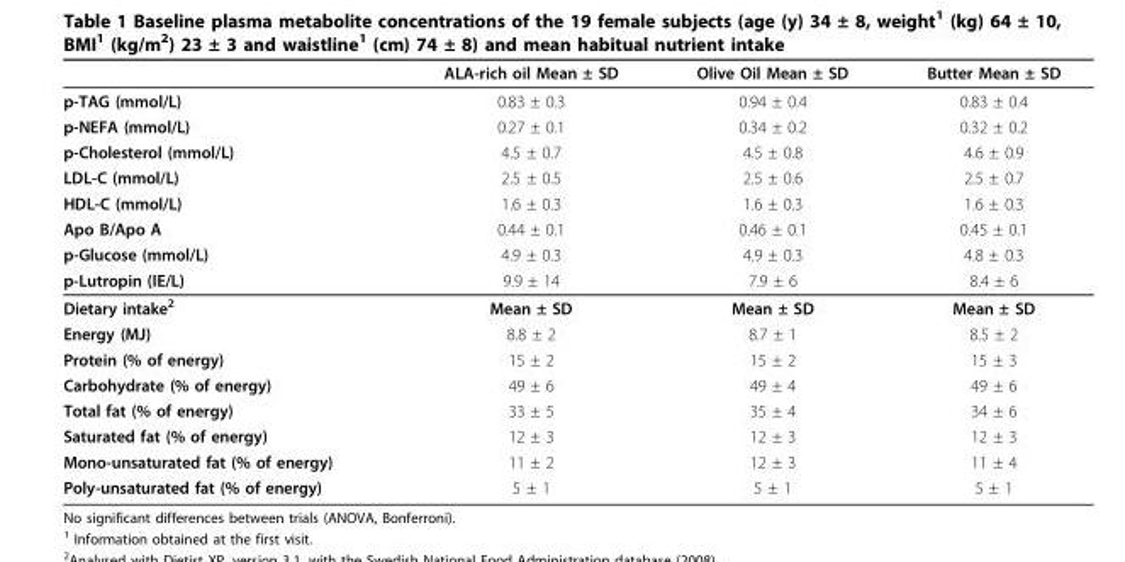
<table><thead><tr><td></td><td>ALA-rich oil Mean ± SD</td><td>Olive Oil Mean ± SD</td><td>Butter Mean ± SD</td></tr></thead><tbody><tr><td>p-TAG (mmol/L)</td><td>0.83 ± 0.3</td><td>0.94 ± 0.4</td><td>0.83 ± 0.4</td></tr><tr><td>p-NEFA (mmol/L)</td><td>0.27 ± 0.1</td><td>0.34 ± 0.2</td><td>0.32 ± 0.2</td></tr><tr><td>p-Cholesterol (mmol/L)</td><td>4.5 ± 0.7</td><td>4.5 ± 0.8</td><td>4.6 ± 0.9</td></tr><tr><td>LDL-C (mmol/L)</td><td>2.5 ± 0.5</td><td>2.5 ± 0.6</td><td>2.5 ± 0.7</td></tr><tr><td>HDL-C (mmol/L)</td><td>1.6 ± 0.3</td><td>1.6 ± 0.3</td><td>1.6 ± 0.3</td></tr><tr><td>Apo B/Apo A</td><td>0.44 ± 0.1</td><td>0.46 ± 0.1</td><td>0.45 ± 0.1</td></tr><tr><td>p-Glucose (mmol/L)</td><td>4.9 ± 0.3</td><td>4.9 ± 0.3</td><td>4.8 ± 0.3</td></tr><tr><td>p-Lutropin (IE/L)</td><td>9.9 ± 14</td><td>7.9 ± 6</td><td>8.4 ± 6</td></tr><tr><td>Dietary intake<sup>2</sup></td><td>Mean ± SD</td><td>Mean ± SD</td><td>Mean ± SD</td></tr><tr><td>Energy (MJ)</td><td>8.8 ± 2</td><td>8.7 ± 1</td><td>8.5 ± 2</td></tr><tr><td>Protein (% of energy)</td><td>15 ± 2</td><td>15 ± 2</td><td>15 ± 3</td></tr><tr><td>Carbohydrate (% of energy)</td><td>49 ± 6</td><td>49 ± 4</td><td>49 ± 6</td></tr><tr><td>Total fat (% of energy)</td><td>33 ± 5</td><td>35 ± 4</td><td>34 ± 6</td></tr><tr><td>Saturated fat (% of energy)</td><td>12 ± 3</td><td>12 ± 3</td><td>12 ± 3</td></tr><tr><td>Mono-unsaturated fat (% of energy)</td><td>11 ± 2</td><td>12 ± 3</td><td>11 ± 4</td></tr><tr><td>Poly-unsaturated fat (% of energy)</td><td>5 ± 1</td><td>5 ± 1</td><td>5 ± 1</td></tr></tbody></table>